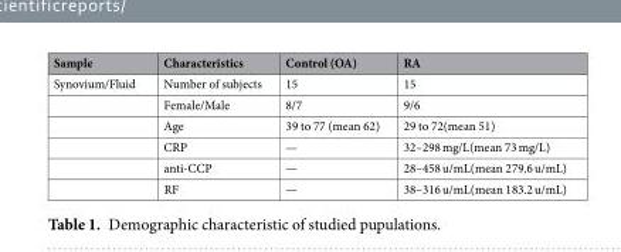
<table><thead><tr><td>Sample</td><td>Characteristics</td><td>Control (OA)</td><td>RA</td></tr></thead><tbody><tr><td rowspan="6">Synovium/Fluid</td><td>Number of subjects</td><td>15</td><td>15</td></tr><tr><td>Female/Male</td><td>8/7</td><td>9/6</td></tr><tr><td>Age</td><td>39 to 77 (mean 62)</td><td>29 to 72(mean 51)</td></tr><tr><td>CRP</td><td>—</td><td>32–298 mg/L(mean 73 mg/L)</td></tr><tr><td>anti-CCP</td><td>—</td><td>28–458 u/mL(mean 279.6 u/mL)</td></tr><tr><td>RF</td><td>—</td><td>38–316 u/mL(mean 183.2 u/mL)</td></tr></tbody></table>